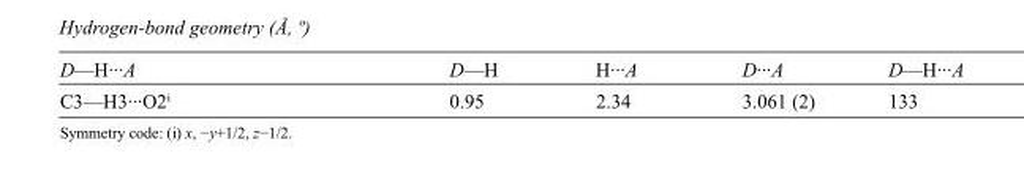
<table><tbody><tr><td>D—H···A</td><td>D—H</td><td>H···A</td><td>D···A</td><td>D—H···A</td></tr><tr><td>C3—H3···O2<sup>i</sup></td><td>0.95</td><td>2.34</td><td>3.061 (2)</td><td>133</td></tr></tbody></table>